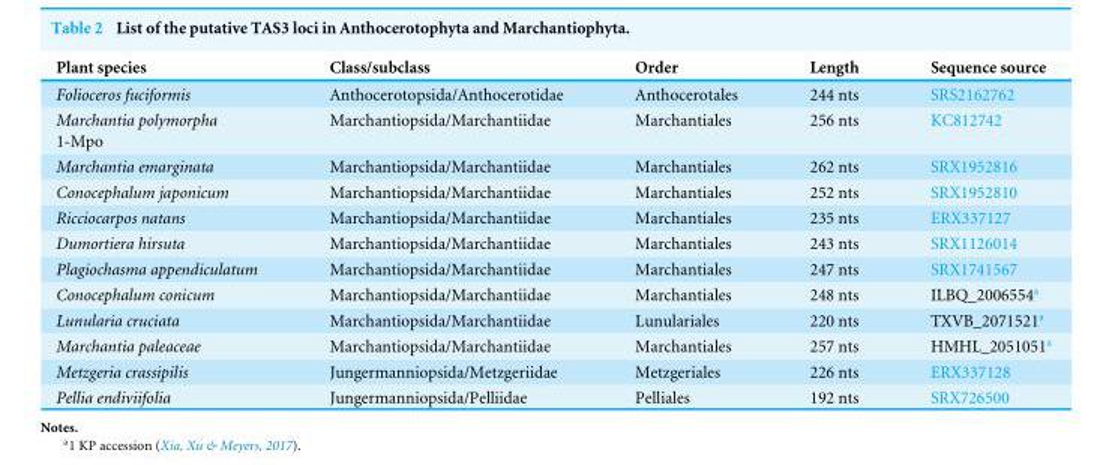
<table><thead><tr><td>Plant species</td><td>Class/subclass</td><td>Order</td><td>Length</td><td>Sequence source</td></tr></thead><tbody><tr><td>Folioceros fuciformis</td><td>Anthocerotopsida/Anthocerotidae</td><td>Anthocerotales</td><td>244 nts</td><td>SRS2162762</td></tr><tr><td>Marchantia polymorpha 1-Mpo</td><td>Marchantiopsida/Marchantiidae</td><td>Marchantiales</td><td>256 nts</td><td>KC812742</td></tr><tr><td>Marchantia emarginata</td><td>Marchantiopsida/Marchantiidae</td><td>Marchantiales</td><td>262 nts</td><td>SRX1952816</td></tr><tr><td>Conocephalum japonicum</td><td>Marchantiopsida/Marchantiidae</td><td>Marchantiales</td><td>252 nts</td><td>SRX1952810</td></tr><tr><td>Ricciocarpos natans</td><td>Marchantiopsida/Marchantiidae</td><td>Marchantiales</td><td>235 nts</td><td>ERX337127</td></tr><tr><td>Dumortiera hirsuta</td><td>Marchantiopsida/Marchantiidae</td><td>Marchantiales</td><td>243 nts</td><td>SRX1126014</td></tr><tr><td>Plagiochasma appendiculatum</td><td>Marchantiopsida/Marchantiidae</td><td>Marchantiales</td><td>247 nts</td><td>SRX1741567</td></tr><tr><td>Conocephalum conicum</td><td>Marchantiopsida/Marchantiidae</td><td>Marchantiales</td><td>248 nts</td><td>ILBQ_2006554<sup>a</sup></td></tr><tr><td>Lunularia cruciata</td><td>Marchantiopsida/Marchantiidae</td><td>Lunulariales</td><td>220 nts</td><td>TXVB_2071521<sup>a</sup></td></tr><tr><td>Marchantia paleaceae</td><td>Marchantiopsida/Marchantiidae</td><td>Marchantiales</td><td>257 nts</td><td>HMHL_2051051<sup>a</sup></td></tr><tr><td>Metzgeria crassipilis</td><td>Jungermanniopsida/Metzgeriidae</td><td>Metzgeriales</td><td>226 nts</td><td>ERX337128</td></tr><tr><td>Pellia endiviifolia</td><td>Jungermanniopsida/Pelliidae</td><td>Pelliales</td><td>192 nts</td><td>SRX726500</td></tr></tbody></table>